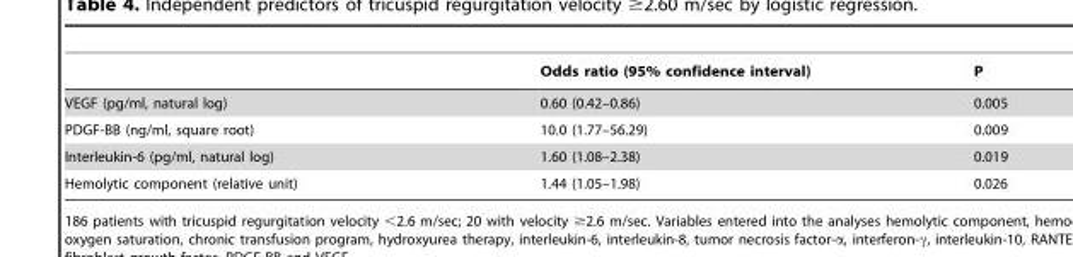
<table><thead><tr><td></td><td>Odds ratio (95% confidence interval)</td><td>P</td></tr></thead><tbody><tr><td>VEGF (pg/ml, natural log)</td><td>0.60 (0.42–0.86)</td><td>0.005</td></tr><tr><td>PDGF-BB (ng/ml, square root)</td><td>10.0 (1.77–56.29)</td><td>0.009</td></tr><tr><td>Interleukin-6 (pg/ml, natural log)</td><td>1.60 (1.08–2.38)</td><td>0.019</td></tr><tr><td>Hemolytic component (relative unit)</td><td>1.44 (1.05–1.98)</td><td>0.026</td></tr></tbody></table>